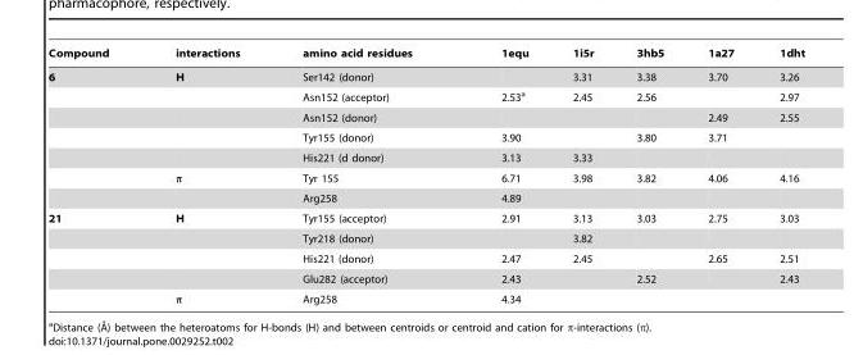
<table><thead><tr><td>Compound</td><td>interactions</td><td>amino acid residues</td><td>1equ</td><td>1i5r</td><td>3hb5</td><td>1a27</td><td>1dht</td></tr></thead><tbody><tr><td rowspan="7">6</td><td>H</td><td>Ser142 (donor)</td><td></td><td>3.31</td><td>3.38</td><td>3.70</td><td>3.26</td></tr><tr><td></td><td>Asn152 (acceptor)</td><td>2.53<sup>a</sup></td><td>2.45</td><td>2.56</td><td></td><td>2.97</td></tr><tr><td></td><td>Asn152 (donor)</td><td></td><td></td><td></td><td>2.49</td><td>2.55</td></tr><tr><td></td><td>Tyr155 (donor)</td><td>3.90</td><td></td><td>3.80</td><td>3.71</td><td></td></tr><tr><td></td><td>His221 (d donor)</td><td>3.13</td><td>3.33</td><td></td><td></td><td></td></tr><tr><td>π</td><td>Tyr 155</td><td>6.71</td><td>3.98</td><td>3.82</td><td>4.06</td><td>4.16</td></tr><tr><td></td><td>Arg258</td><td>4.89</td><td></td><td></td><td></td><td></td></tr><tr><td rowspan="5">21</td><td>H</td><td>Tyr155 (acceptor)</td><td>2.91</td><td>3.13</td><td>3.03</td><td>2.75</td><td>3.03</td></tr><tr><td></td><td>Tyr218 (donor)</td><td></td><td>3.82</td><td></td><td></td><td></td></tr><tr><td></td><td>His221 (donor)</td><td>2.47</td><td>2.45</td><td></td><td>2.65</td><td>2.51</td></tr><tr><td></td><td>Glu282 (acceptor)</td><td>2.43</td><td></td><td>2.52</td><td></td><td>2.43</td></tr><tr><td>π</td><td>Arg258</td><td>4.34</td><td></td><td></td><td></td><td></td></tr></tbody></table>